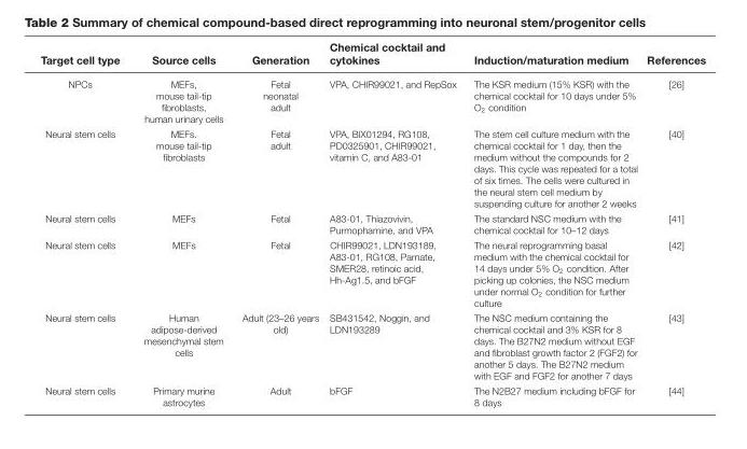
<table><thead><tr><td>Target cell type</td><td>Source cells</td><td>Generation</td><td>Chemical cocktail and cytokines</td><td>Induction/maturation medium</td><td>References</td></tr></thead><tbody><tr><td>NPCs</td><td>MEFs, mouse tail-tip fibroblasts, human urinary cells</td><td>Fetal neonatal adult</td><td>VPA, CHIR99021, and RepSox</td><td>The KSR medium (15% KSR) with the chemical cocktail for 10 days under 5% O<sub>2</sub> condition</td><td>[26]</td></tr><tr><td>Neural stem cells</td><td>MEFs. mouse tail-tip fibroblasts</td><td>Fetal adult</td><td>VPA, BIX01294, RG108, PD0325901, CHIR99021, vitamin C, and A83-01</td><td>The stem cell culture medium with the chemical cocktail for 1 day, then the medium without the compounds for 2 days. This cycle was repeated for a total of six times. The cells were cultured in the neural stem cell medium by suspending culture for another 2 weeks</td><td>[40]</td></tr><tr><td>Neural stem cells</td><td>MEFs</td><td>Fetal</td><td>A83-01, Thiazovivin, Purmophamine, and VPA</td><td>The standard NSC medium with the chemical cocktail for 10–12 days</td><td>[41]</td></tr><tr><td>Neural stem cells</td><td>MEFs</td><td>Fetal</td><td>CHIR99021, LDN193189, A83-01, RG108, Parnate, SMER28, retinoic acid, Hh-Ag1.5, and bFGF</td><td>The neural reprogramming basal medium with the chemical cocktail for 14 days under 5% O<sub>2</sub> condition. After picking up colonies, the NSC medium under normal O<sub>2</sub> condition for further culture</td><td>[42]</td></tr><tr><td>Neural stem cells</td><td>Human adipose-derived mesenchymal stem cells</td><td>Adult (23–26 years old)</td><td>SB431542, Noggin, and LDN193289</td><td>The NSC medium containing the chemical cocktail and 3% KSR for 8 days. The B27N2 medium without EGF and fibroblast growth factor 2 (FGF2) for another 5 days. The B27N2 medium with EGF and FGF2 for another 7 days</td><td>[43]</td></tr><tr><td>Neural stem cells</td><td>Primary murine astrocytes</td><td>Adult</td><td>bFGF</td><td>The N2B27 medium including bFGF for 8 days</td><td>[44]</td></tr></tbody></table>